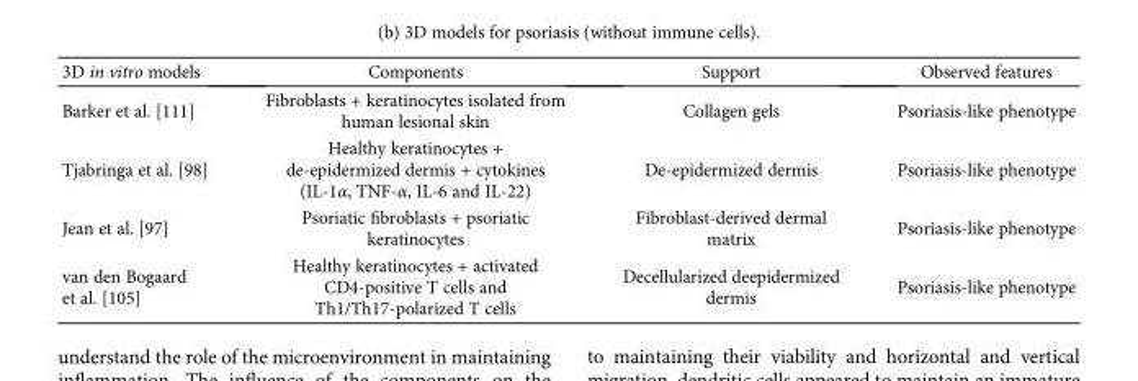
<table><thead><tr><td>3D in vitro models</td><td>Components</td><td>Support</td><td>Observed features</td></tr></thead><tbody><tr><td>Barker et al. [111]</td><td>Fibroblasts + keratinocytes isolated from human lesional skin</td><td>Collagen gels</td><td>Psoriasis-like phenotype</td></tr><tr><td>Tjabringa et al. [98]</td><td>Healthy keratinocytes + de-epidermized dermis + cytokines (IL-1α, TNF-α, IL-6 and IL-22)</td><td>De-epidermized dermis</td><td>Psoriasis-like phenotype</td></tr><tr><td>Jean et al. [97]</td><td>Psoriatic fibroblasts + psoriatic keratinocytes</td><td>Fibroblast-derived dermal matrix</td><td>Psoriasis-like phenotype</td></tr><tr><td>van den Bogaard et al. [105]</td><td>Healthy keratinocytes + activated CD4-positive T cells and Th1/Th17-polarized T cells</td><td>Decellularized deepidermized dermis</td><td>Psoriasis-like phenotype</td></tr></tbody></table>